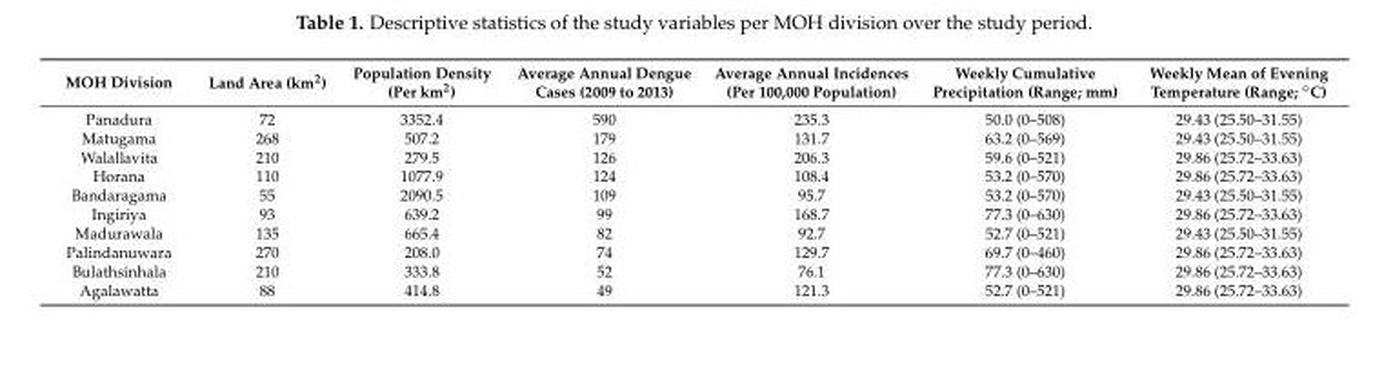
<table><thead><tr><td>MOH Division</td><td>Land Area (km<sup>2</sup>)</td><td>Population Density (Per km<sup>2</sup>)</td><td>Average Annual Dengue Cases (2009 to 2013)</td><td>Average Annual Incidences (Per 100,000 Population)</td><td>Weekly Cumulative Precipitation (Range; mm)</td><td>Weekly Mean of Evening Temperature (Range; ◦C)</td></tr></thead><tbody><tr><td>Panadura</td><td>72</td><td>3352.4</td><td>590</td><td>235.3</td><td>50.0 (0–508)</td><td>29.43 (25.50–31.55)</td></tr><tr><td>Matugama</td><td>268</td><td>507.2</td><td>179</td><td>131.7</td><td>63.2 (0–569)</td><td>29.43 (25.50–31.55)</td></tr><tr><td>Walallavita</td><td>210</td><td>279.5</td><td>126</td><td>206.3</td><td>59.6 (0–521)</td><td>29.86 (25.72–33.63)</td></tr><tr><td>Horana</td><td>110</td><td>1077.9</td><td>124</td><td>108.4</td><td>53.2 (0–570)</td><td>29.86 (25.72–33.63)</td></tr><tr><td>Bandaragama</td><td>55</td><td>2090.5</td><td>109</td><td>95.7</td><td>53.2 (0–570)</td><td>29.43 (25.50–31.55)</td></tr><tr><td>Ingiriya</td><td>93</td><td>639.2</td><td>99</td><td>168.7</td><td>77.3 (0–630)</td><td>29.86 (25.72–33.63)</td></tr><tr><td>Madurawala</td><td>135</td><td>665.4</td><td>82</td><td>92.7</td><td>52.7 (0–521)</td><td>29.43 (25.50–31.55)</td></tr><tr><td>Palindanuwara</td><td>270</td><td>208.0</td><td>74</td><td>129.7</td><td>69.7 (0–460)</td><td>29.86 (25.72–33.63)</td></tr><tr><td>Bulathsinhala</td><td>210</td><td>333.8</td><td>52</td><td>76.1</td><td>77.3 (0–630)</td><td>29.86 (25.72–33.63)</td></tr><tr><td>Agalawatta</td><td>88</td><td>414.8</td><td>49</td><td>121.3</td><td>52.7 (0–521)</td><td>29.86 (25.72–33.63)</td></tr></tbody></table>